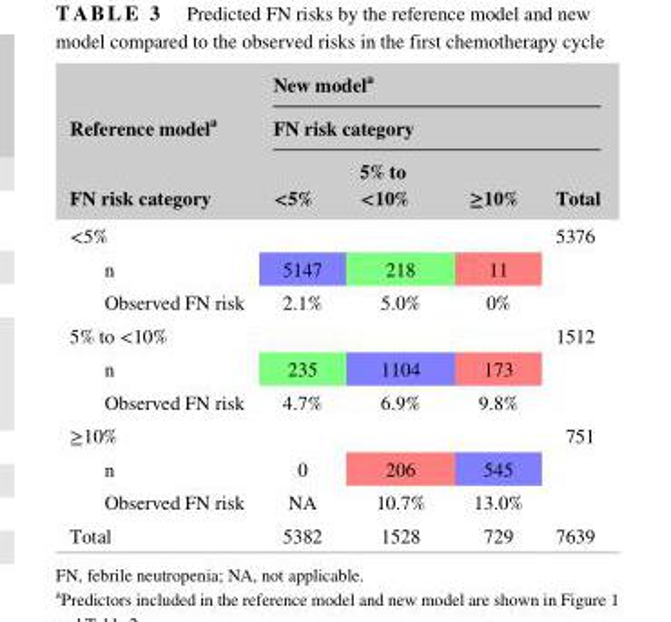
<table><thead><tr><td rowspan="3">Reference model<sup>a</sup> FN risk category</td><td rowspan="2" colspan="4">New model<sup>a</sup> FN risk category</td></tr><tr></tr><tr><td>&lt;5%</td><td>5% to &lt;10%</td><td>≥10%</td><td>Total</td></tr></thead><tbody><tr><td>&lt;5%</td><td></td><td></td><td></td><td>5376</td></tr><tr><td>n</td><td>5147</td><td>218</td><td>11</td><td></td></tr><tr><td>Observed FN risk</td><td>2.1%</td><td>5.0%</td><td>0%</td><td></td></tr><tr><td>5% to &lt;10%</td><td></td><td></td><td></td><td>1512</td></tr><tr><td>n</td><td>235</td><td>1104</td><td>173</td><td></td></tr><tr><td>Observed FN risk</td><td>4.7%</td><td>6.9%</td><td>9.8%</td><td></td></tr><tr><td>≥10%</td><td></td><td></td><td></td><td>751</td></tr><tr><td>n</td><td>0</td><td>206</td><td>545</td><td></td></tr><tr><td>Observed FN risk</td><td>NA</td><td>10.7%</td><td>13.0%</td><td></td></tr><tr><td>Total</td><td>5382</td><td>1528</td><td>729</td><td>7639</td></tr></tbody></table>